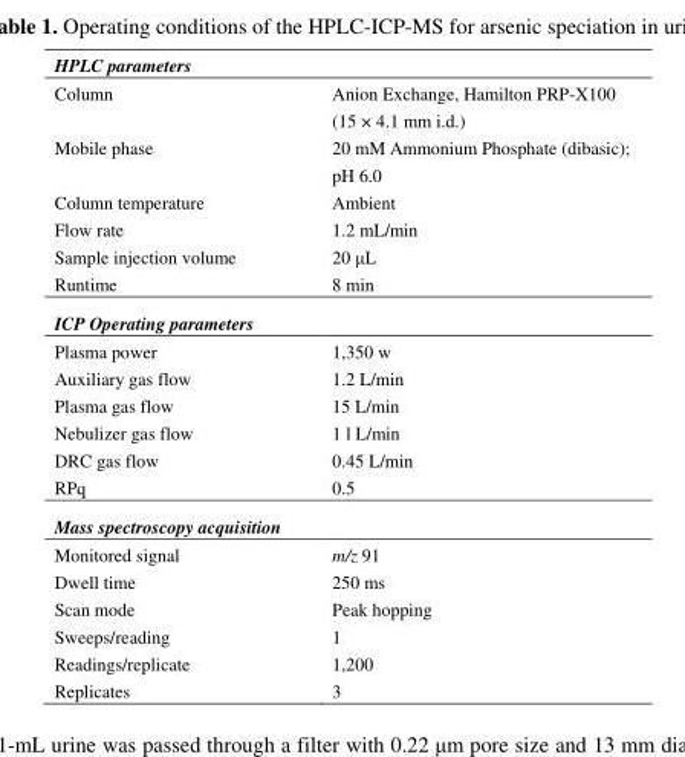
<table><tbody><tr><td colspan="2">HPLC parameters</td></tr><tr><td>Column</td><td>Anion Exchange, Hamilton PRP-X100 (15 × 4.1 mm i.d.)</td></tr><tr><td>Mobile phase</td><td>20 mM Ammonium Phosphate (dibasic); pH 6.0</td></tr><tr><td>Column temperature</td><td>Ambient</td></tr><tr><td>Flow rate</td><td>1.2 mL/min</td></tr><tr><td>Sample injection volume</td><td>20 μL</td></tr><tr><td>Runtime</td><td>8 min</td></tr><tr><td colspan="2">ICP Operating parameters</td></tr><tr><td>Plasma power</td><td>1,350 w</td></tr><tr><td>Auxiliary gas flow</td><td>1.2 L/min</td></tr><tr><td>Plasma gas flow</td><td>15 L/min</td></tr><tr><td>Nebulizer gas flow</td><td>1 l L/min</td></tr><tr><td>DRC gas flow</td><td>0.45 L/min</td></tr><tr><td>RPq</td><td>0.5</td></tr><tr><td colspan="2">Mass spectroscopy acquisition</td></tr><tr><td>Monitored signal</td><td>m/z 91</td></tr><tr><td>Dwell time</td><td>250 ms</td></tr><tr><td>Scan mode</td><td>Peak hopping</td></tr><tr><td>Sweeps/reading</td><td>1</td></tr><tr><td>Readings/replicate</td><td>1,200</td></tr><tr><td>Replicates</td><td>3</td></tr></tbody></table>